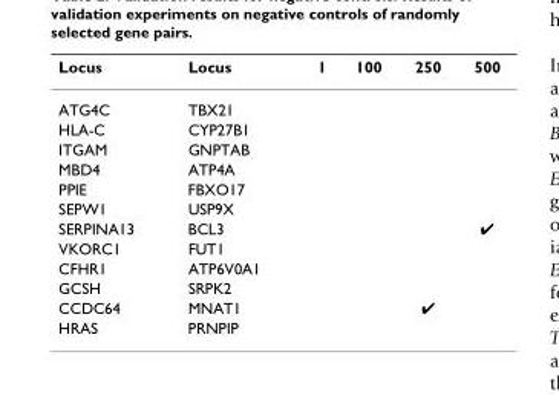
<table><thead><tr><td>Locus</td><td>Locus</td><td>1</td><td>100</td><td>250</td><td>500</td></tr></thead><tbody><tr><td>ATG4C</td><td>TBX21</td><td></td><td></td><td></td><td></td></tr><tr><td>HLA-C</td><td>CYP27B1</td><td></td><td></td><td></td><td></td></tr><tr><td>ITGAM</td><td>GNPTAB</td><td></td><td></td><td></td><td></td></tr><tr><td>MBD4</td><td>ATP4A</td><td></td><td></td><td></td><td></td></tr><tr><td>PPIE</td><td>FBXO17</td><td></td><td></td><td></td><td></td></tr><tr><td>SEPW1</td><td>USP9X</td><td></td><td></td><td></td><td></td></tr><tr><td>SERPINA13</td><td>BCL3</td><td></td><td></td><td></td><td>✔</td></tr><tr><td>VKORC1</td><td>FUT1</td><td></td><td></td><td></td><td></td></tr><tr><td>CFHR1</td><td>ATP6V0A1</td><td></td><td></td><td></td><td></td></tr><tr><td>GCSH</td><td>SRPK2</td><td></td><td></td><td></td><td></td></tr><tr><td>CCDC64</td><td>MNAT1</td><td></td><td></td><td>✔</td><td></td></tr><tr><td>HRAS</td><td>PRNPIP</td><td></td><td></td><td></td><td></td></tr></tbody></table>